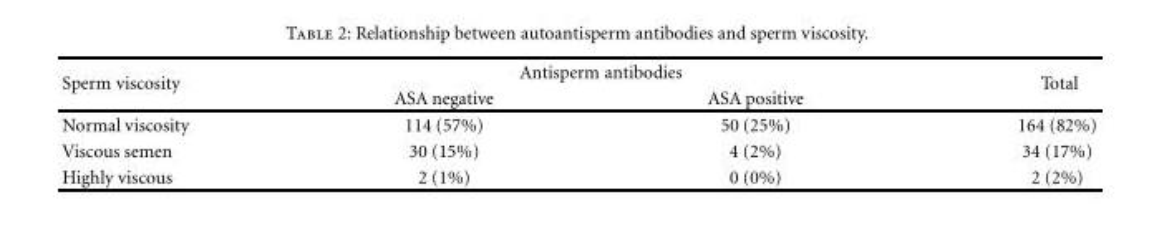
<table><thead><tr><td rowspan="2">Sperm viscosity</td><td colspan="2">Antisperm antibodies</td><td rowspan="2">Total</td></tr><tr><td>ASA negative</td><td>ASA positive</td></tr></thead><tbody><tr><td>Normal viscosity</td><td>114 (57%)</td><td>50 (25%)</td><td>164 (82%)</td></tr><tr><td>Viscous semen</td><td>30 (15%)</td><td>4 (2%)</td><td>34 (17%)</td></tr><tr><td>Highly viscous</td><td>2 (1%)</td><td>0 (0%)</td><td>2 (2%)</td></tr></tbody></table>